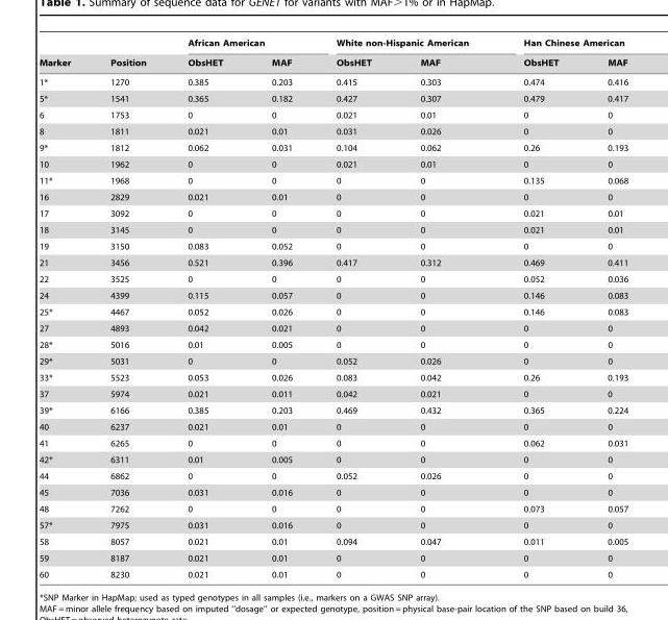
<table><thead><tr><td rowspan="2">Marker</td><td rowspan="2">Position</td><td colspan="2">African American</td><td colspan="2">White non-Hispanic American</td><td colspan="2">Han Chinese American</td></tr><tr><td>ObsHET</td><td>MAF</td><td>ObsHET</td><td>MAF</td><td>ObsHET</td><td>MAF</td></tr></thead><tbody><tr><td>1*</td><td>1270</td><td>0.385</td><td>0.203</td><td>0.415</td><td>0.303</td><td>0.474</td><td>0.416</td></tr><tr><td>5*</td><td>1541</td><td>0.365</td><td>0.182</td><td>0.427</td><td>0.307</td><td>0.479</td><td>0.417</td></tr><tr><td>6</td><td>1753</td><td>0</td><td>0</td><td>0.021</td><td>0.01</td><td>0</td><td>0</td></tr><tr><td>8</td><td>1811</td><td>0.021</td><td>0.01</td><td>0.031</td><td>0.026</td><td>0</td><td>0</td></tr><tr><td>9*</td><td>1812</td><td>0.062</td><td>0.031</td><td>0.104</td><td>0.062</td><td>0.26</td><td>0.193</td></tr><tr><td>10</td><td>1962</td><td>0</td><td>0</td><td>0.021</td><td>0.01</td><td>0</td><td>0</td></tr><tr><td>11*</td><td>1968</td><td>0</td><td>0</td><td>0</td><td>0</td><td>0.135</td><td>0.068</td></tr><tr><td>16</td><td>2829</td><td>0.021</td><td>0.01</td><td>0</td><td>0</td><td>0</td><td>0</td></tr><tr><td>17</td><td>3092</td><td>0</td><td>0</td><td>0</td><td>0</td><td>0.021</td><td>0.01</td></tr><tr><td>18</td><td>3145</td><td>0</td><td>0</td><td>0</td><td>0</td><td>0.021</td><td>0.01</td></tr><tr><td>19</td><td>3150</td><td>0.083</td><td>0.052</td><td>0</td><td>0</td><td>0</td><td>0</td></tr><tr><td>21</td><td>3456</td><td>0.521</td><td>0.396</td><td>0.417</td><td>0.312</td><td>0.469</td><td>0.411</td></tr><tr><td>22</td><td>3525</td><td>0</td><td>0</td><td>0</td><td>0</td><td>0.052</td><td>0.036</td></tr><tr><td>24</td><td>4399</td><td>0.115</td><td>0.057</td><td>0</td><td>0</td><td>0.146</td><td>0.083</td></tr><tr><td>25*</td><td>4467</td><td>0.052</td><td>0.026</td><td>0</td><td>0</td><td>0.146</td><td>0.083</td></tr><tr><td>27</td><td>4893</td><td>0.042</td><td>0.021</td><td>0</td><td>0</td><td>0</td><td>0</td></tr><tr><td>28*</td><td>5016</td><td>0.01</td><td>0.005</td><td>0</td><td>0</td><td>0</td><td>0</td></tr><tr><td>29*</td><td>5031</td><td>0</td><td>0</td><td>0.052</td><td>0.026</td><td>0</td><td>0</td></tr><tr><td>33*</td><td>5523</td><td>0.053</td><td>0.026</td><td>0.083</td><td>0.042</td><td>0.26</td><td>0.193</td></tr><tr><td>37</td><td>5974</td><td>0.021</td><td>0.011</td><td>0.042</td><td>0.021</td><td>0</td><td>0</td></tr><tr><td>39*</td><td>6166</td><td>0.385</td><td>0.203</td><td>0.469</td><td>0.432</td><td>0.365</td><td>0.224</td></tr><tr><td>40</td><td>6237</td><td>0.021</td><td>0.01</td><td>0</td><td>0</td><td>0</td><td>0</td></tr><tr><td>41</td><td>6265</td><td>0</td><td>0</td><td>0</td><td>0</td><td>0.062</td><td>0.031</td></tr><tr><td>42*</td><td>6311</td><td>0.01</td><td>0.005</td><td>0</td><td>0</td><td>0</td><td>0</td></tr><tr><td>44</td><td>6862</td><td>0</td><td>0</td><td>0.052</td><td>0.026</td><td>0</td><td>0</td></tr><tr><td>45</td><td>7036</td><td>0.031</td><td>0.016</td><td>0</td><td>0</td><td>0</td><td>0</td></tr><tr><td>48</td><td>7262</td><td>0</td><td>0</td><td>0</td><td>0</td><td>0.073</td><td>0.057</td></tr><tr><td>57*</td><td>7975</td><td>0.031</td><td>0.016</td><td>0</td><td>0</td><td>0</td><td>0</td></tr><tr><td>58</td><td>8057</td><td>0.021</td><td>0.01</td><td>0.094</td><td>0.047</td><td>0.011</td><td>0.005</td></tr><tr><td>59</td><td>8187</td><td>0.021</td><td>0.01</td><td>0</td><td>0</td><td>0</td><td>0</td></tr><tr><td>60</td><td>8230</td><td>0.021</td><td>0.01</td><td>0</td><td>0</td><td>0</td><td>0</td></tr></tbody></table>